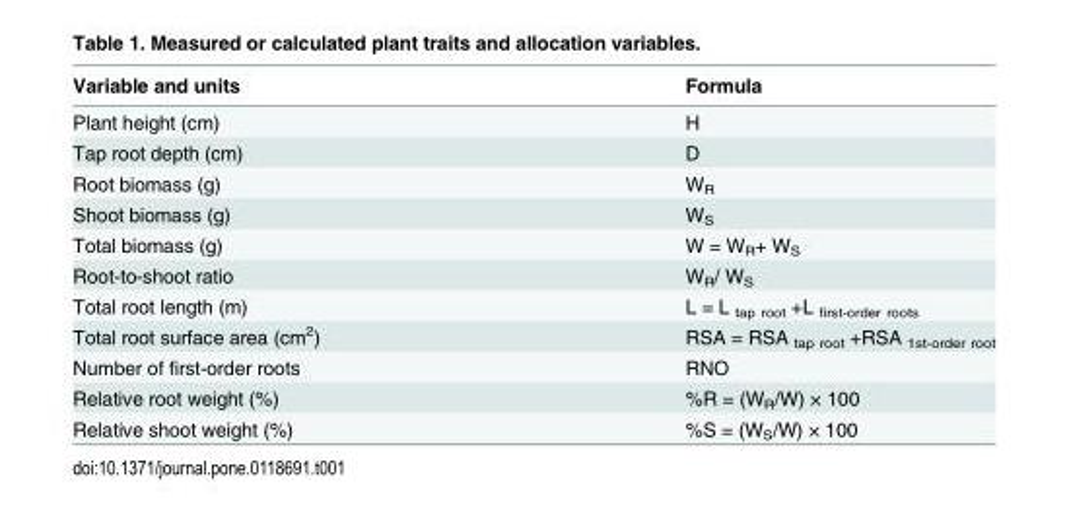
<table><thead><tr><td>Variable and units</td><td>Formula</td></tr></thead><tbody><tr><td>Plant height (cm)</td><td>H</td></tr><tr><td>Tap root depth (cm)</td><td>D</td></tr><tr><td>Root biomass (g)</td><td>W<sub>R</sub></td></tr><tr><td>Shoot biomass (g)</td><td>W<sub>S</sub></td></tr><tr><td>Total biomass (g)</td><td>W = W<sub>R</sub>+ W<sub>S</sub></td></tr><tr><td>Root-to-shoot ratio</td><td>W<sub>R</sub>/ W<sub>S</sub></td></tr><tr><td>Total root length (m)</td><td>L = L <sub>tap root</sub> +L <sub>first-order roots</sub></td></tr><tr><td>Total root surface area (cm<sup>2</sup>)</td><td>RSA = RSA <sub>tap root</sub> +RSA <sub>1st-order root</sub></td></tr><tr><td>Number of first-order roots</td><td>RNO</td></tr><tr><td>Relative root weight (%)</td><td>%R = (W<sub>R</sub>/W) × 100</td></tr><tr><td>Relative shoot weight (%)</td><td>%S = (W<sub>S</sub>/W) × 100</td></tr></tbody></table>